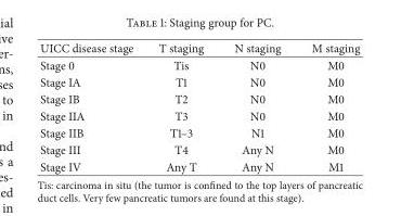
<table><thead><tr><td>UICC disease stage</td><td>T staging</td><td>N staging</td><td>M staging</td></tr></thead><tbody><tr><td>Stage 0</td><td>Tis</td><td>N0</td><td>M0</td></tr><tr><td>Stage IA</td><td>T1</td><td>N0</td><td>M0</td></tr><tr><td>Stage IB</td><td>T2</td><td>N0</td><td>M0</td></tr><tr><td>Stage IIA</td><td>T3</td><td>N0</td><td>M0</td></tr><tr><td>Stage IIB</td><td>T1–3</td><td>N1</td><td>M0</td></tr><tr><td>Stage III</td><td>T4</td><td>Any N</td><td>M0</td></tr><tr><td>Stage IV</td><td>Any T</td><td>Any N</td><td>M1</td></tr></tbody></table>